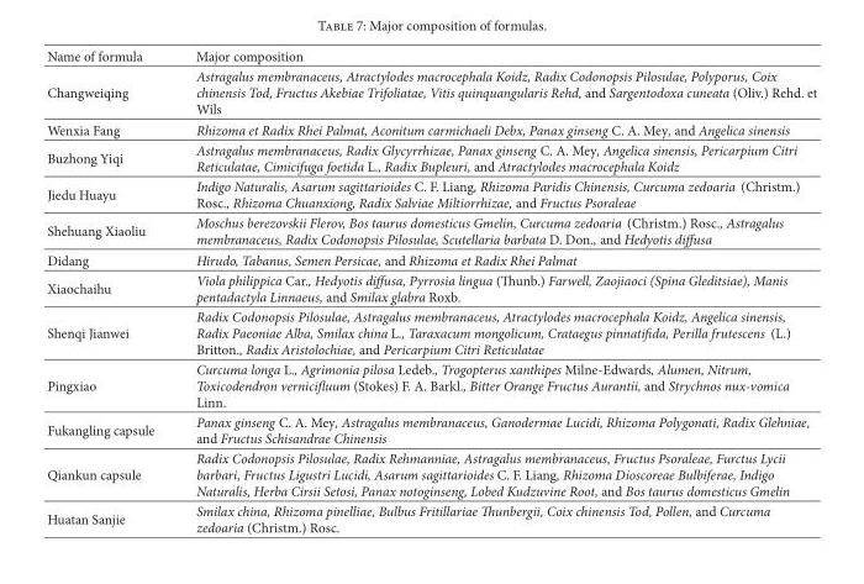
<table><thead><tr><td>Name of formula</td><td>Major composition</td></tr></thead><tbody><tr><td>Changweiqing</td><td>Astragalus membranaceus, Atractylodes macrocephala Koidz, Radix Codonopsis Pilosulae, Polyporus, Coix chinensis Tod, Fructus Akebiae Trifoliatae, Vitis quinquangularis Rehd, and Sargentodoxa cuneata (Oliv.) Rehd. et Wils</td></tr><tr><td>Wenxia Fang</td><td>Rhizoma et Radix Rhei Palmat, Aconitum carmichaeli Debx, Panax ginseng C. A. Mey, and Angelica sinensis</td></tr><tr><td>Buzhong Yiqi</td><td>Astragalus membranaceus, Radix Glycyrrhizae, Panax ginseng C. A. Mey, Angelica sinensis, Pericarpium Citri Reticulatae, Cimicifuga foetida L., Radix Bupleuri, and Atractylodes macrocephala Koidz</td></tr><tr><td>Jiedu Huayu</td><td>Indigo Naturalis, Asarum sagittarioides C. F. Liang, Rhizoma Paridis Chinensis, Curcuma zedoaria (Christm.) Rosc., Rhizoma Chuanxiong, Radix Salviae Miltiorrhizae, and Fructus Psoraleae</td></tr><tr><td>Shehuang Xiaoliu</td><td>Moschus berezovskii Flerov, Bos taurus domesticus Gmelin, Curcuma zedoaria (Christm.) Rosc., Astragalus membranaceus, Radix Codonopsis Pilosulae, Scutellaria barbata D. Don., and Hedyotis diffusa</td></tr><tr><td>Didang</td><td>Hirudo, Tabanus, Semen Persicae, and Rhizoma et Radix Rhei Palmat</td></tr><tr><td>Xiaochaihu</td><td>Viola philippica Car., Hedyotis diffusa, Pyrrosia lingua (Thunb.) Farwell, Zaojiaoci (Spina Gleditsiae), Manis pentadactyla Linnaeus, and Smilax glabra Roxb.</td></tr><tr><td>Shenqi Jianwei</td><td>Radix Codonopsis Pilosulae, Astragalus membranaceus, Atractylodes macrocephala Koidz, Angelica sinensis, Radix Paeoniae Alba, Smilax china L., Taraxacum mongolicum, Crataegus pinnatifida, Perilla frutescens (L.) Britton., Radix Aristolochiae, and Pericarpium Citri Reticulatae</td></tr><tr><td>Pingxiao</td><td>Curcuma longa L., Agrimonia pilosa Ledeb., Trogopterus xanthipes Milne-Edwards, Alumen, Nitrum, Toxicodendron vernicifluum (Stokes) F. A. Barkl., Bitter Orange Fructus Aurantii, and Strychnos nux-vomica Linn.</td></tr><tr><td>Fukangling capsule</td><td>Panax ginseng C. A. Mey, Astragalus membranaceus, Ganodermae Lucidi, Rhizoma Polygonati, Radix Glehniae, and Fructus Schisandrae Chinensis</td></tr><tr><td>Qiankun capsule</td><td>Radix Codonopsis Pilosulae, Radix Rehmanniae, Astragalus membranaceus, Fructus Psoraleae, Furctus Lycii barbari, Fructus Ligustri Lucidi, Asarum sagittarioides C. F. Liang, Rhizoma Dioscoreae Bulbiferae, Indigo Naturalis, Herba Cirsii Setosi, Panax notoginseng, Lobed Kudzuvine Root, and Bos taurus domesticus Gmelin</td></tr><tr><td>Huatan Sanjie</td><td>Smilax china, Rhizoma pinelliae, Bulbus Fritillariae Thunbergii, Coix chinensis Tod, Pollen, and Curcuma zedoaria (Christm.) Rosc.</td></tr></tbody></table>